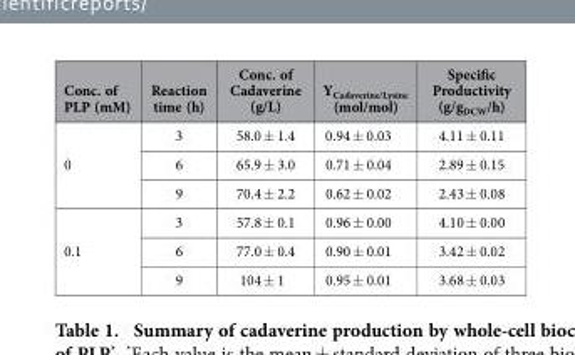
<table><thead><tr><td>Conc. of PLP (mM)</td><td>Reaction time (h)</td><td>Conc. of Cadaverine (g/L)</td><td>Y<sub>Cadaverine/Lysine</sub> (mol/mol)</td><td>Specific Productivity (g/g<sub>DCW</sub>/h)</td></tr></thead><tbody><tr><td rowspan="3">0</td><td>3</td><td>58.0 ± 1.4</td><td>0.94 ± 0.03</td><td>4.11 ± 0.11</td></tr><tr><td>6</td><td>65.9 ± 3.0</td><td>0.71 ± 0.04</td><td>2.89 ± 0.15</td></tr><tr><td>9</td><td>70.4 ± 2.2</td><td>0.62 ± 0.02</td><td>2.43 ± 0.08</td></tr><tr><td rowspan="3">0.1</td><td>3</td><td>57.8 ± 0.1</td><td>0.96 ± 0.00</td><td>4.10 ± 0.00</td></tr><tr><td>6</td><td>77.0 ± 0.4</td><td>0.90 ± 0.01</td><td>3.42 ± 0.02</td></tr><tr><td>9</td><td>104 ± 1</td><td>0.95 ± 0.01</td><td>3.68 ± 0.03</td></tr></tbody></table>